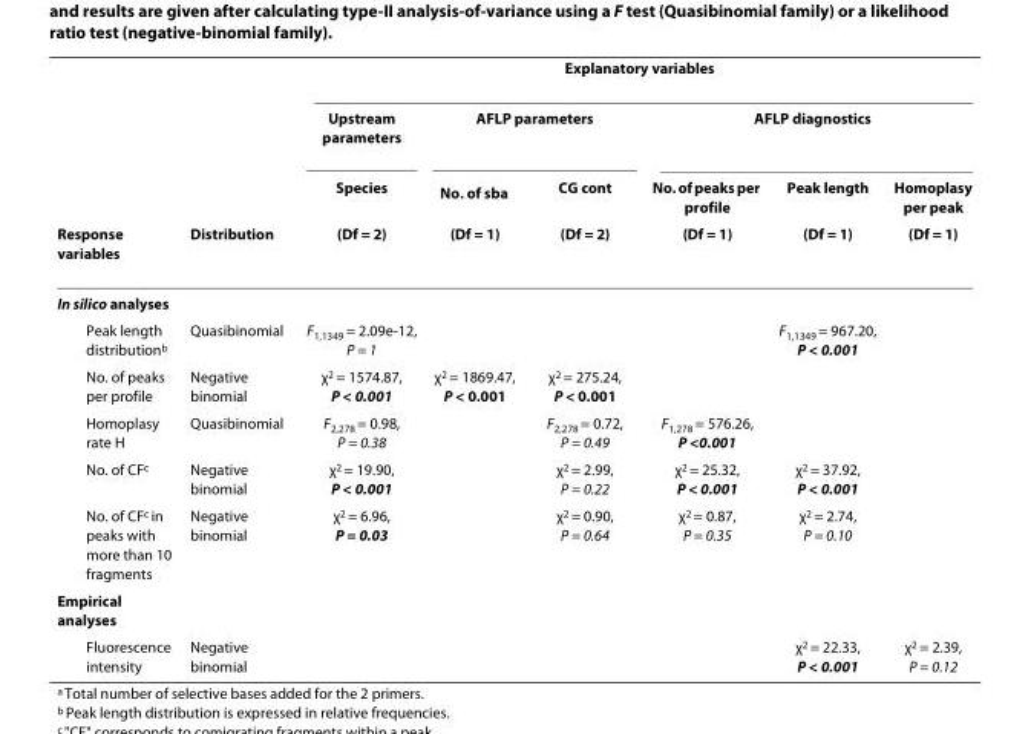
<table><thead><tr><td rowspan="4">Response variables</td><td rowspan="4">Distribution</td><td colspan="6">Explanatory variables</td></tr><tr><td rowspan="3">Upstream parameters Species (Df = 2)</td><td colspan="2">AFLP parameters</td><td colspan="3">AFLP diagnostics</td></tr><tr><td rowspan="2">No. of sb<sup>a</sup> (Df = 1)</td><td rowspan="2">CG cont (Df = 2)</td><td rowspan="2">No. of peaks per profile (Df = 1)</td><td rowspan="2">Peak length (Df = 1)</td><td rowspan="2">Homoplasy per peak (Df = 1)</td></tr><tr></tr></thead><tbody><tr><td colspan="8">In silico analyses</td></tr><tr><td>Peak length distribution<sup>b</sup></td><td>Quasibinomial</td><td>F<sub>1,1349</sub> = 2.09e-12, P = 1</td><td></td><td></td><td></td><td>F<sub>1,1349</sub> = 967.20, P &lt; 0.001</td><td></td></tr><tr><td>No. of peaks per profile</td><td>Negative binomial</td><td>χ<sup>2</sup> = 1574.87, P &lt; 0.001</td><td>χ<sup>2</sup> = 1869.47, P &lt; 0.001</td><td>χ<sup>2</sup> = 275.24, P &lt; 0.001</td><td></td><td></td><td></td></tr><tr><td>Homoplasy rate H</td><td>Quasibinomial</td><td>F<sub>2,278</sub> = 0.98, P = 0.38</td><td></td><td>F<sub>2,278</sub> = 0.72, P = 0.49</td><td>F<sub>1,278</sub> = 576.26, P &lt;0.001</td><td></td><td></td></tr><tr><td>No. of CF<sup>c</sup></td><td>Negative binomial</td><td>χ<sup>2</sup> = 19.90, P &lt; 0.001</td><td></td><td>χ<sup>2</sup> = 2.99, P = 0.22</td><td>χ<sup>2</sup> = 25.32, P &lt; 0.001</td><td>χ<sup>2</sup> = 37.92, P &lt; 0.001</td><td></td></tr><tr><td>No. of CF<sup>c</sup> in peaks with more than 10 fragments</td><td>Negative binomial</td><td>χ<sup>2</sup> = 6.96, P = 0.03</td><td></td><td>χ<sup>2</sup> = 0.90, P = 0.64</td><td>χ<sup>2</sup> = 0.87, P = 0.35</td><td>χ<sup>2</sup> = 2.74, P = 0.10</td><td></td></tr><tr><td colspan="8">Empirical analyses</td></tr><tr><td>Fluorescence intensity</td><td>Negative binomial</td><td></td><td></td><td></td><td></td><td>χ<sup>2</sup> = 22.33, P &lt; 0.001</td><td>χ<sup>2</sup> = 2.39, P = 0.12</td></tr></tbody></table>